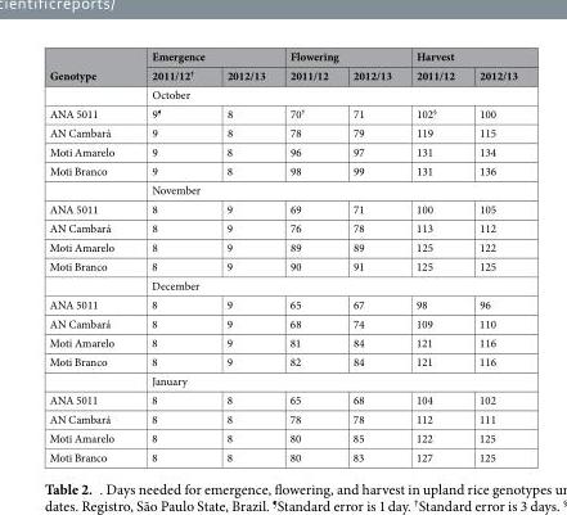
<table><thead><tr><td rowspan="2">Genotype</td><td colspan="2">Emergence</td><td colspan="2">Flowering</td><td colspan="2">Harvest</td></tr><tr><td>2011/12<sup>†</sup></td><td>2012/13</td><td>2011/12</td><td>2012/13</td><td>2011/12</td><td>2012/13</td></tr></thead><tbody><tr><td></td><td colspan="6">October</td></tr><tr><td>ANA 5011</td><td>9<sup>¶</sup></td><td>8</td><td>70<sup>†</sup></td><td>71</td><td>102<sup>§</sup></td><td>100</td></tr><tr><td>AN Cambará</td><td>9</td><td>8</td><td>78</td><td>79</td><td>119</td><td>115</td></tr><tr><td>Moti Amarelo</td><td>9</td><td>8</td><td>96</td><td>97</td><td>131</td><td>134</td></tr><tr><td rowspan="2">Moti Branco</td><td>9</td><td>8</td><td>98</td><td>99</td><td>131</td><td>136</td></tr><tr><td colspan="6">November</td></tr><tr><td>ANA 5011</td><td>8</td><td>9</td><td>69</td><td>71</td><td>100</td><td>105</td></tr><tr><td>AN Cambará</td><td>8</td><td>9</td><td>76</td><td>78</td><td>113</td><td>112</td></tr><tr><td>Moti Amarelo</td><td>8</td><td>9</td><td>89</td><td>89</td><td>125</td><td>122</td></tr><tr><td rowspan="2">Moti Branco</td><td>8</td><td>9</td><td>90</td><td>91</td><td>125</td><td>125</td></tr><tr><td colspan="6">December</td></tr><tr><td>ANA 5011</td><td>8</td><td>9</td><td>65</td><td>67</td><td>98</td><td>96</td></tr><tr><td>AN Cambará</td><td>8</td><td>9</td><td>68</td><td>74</td><td>109</td><td>110</td></tr><tr><td>Moti Amarelo</td><td>8</td><td>9</td><td>81</td><td>84</td><td>121</td><td>116</td></tr><tr><td rowspan="2">Moti Branco</td><td>8</td><td>9</td><td>82</td><td>84</td><td>121</td><td>116</td></tr><tr><td colspan="6">January</td></tr><tr><td>ANA 5011</td><td>8</td><td>8</td><td>65</td><td>68</td><td>104</td><td>102</td></tr><tr><td>AN Cambará</td><td>8</td><td>8</td><td>78</td><td>78</td><td>112</td><td>111</td></tr><tr><td>Moti Amarelo</td><td>8</td><td>8</td><td>80</td><td>85</td><td>122</td><td>125</td></tr><tr><td>Moti Branco</td><td>8</td><td>8</td><td>80</td><td>83</td><td>127</td><td>125</td></tr></tbody></table>